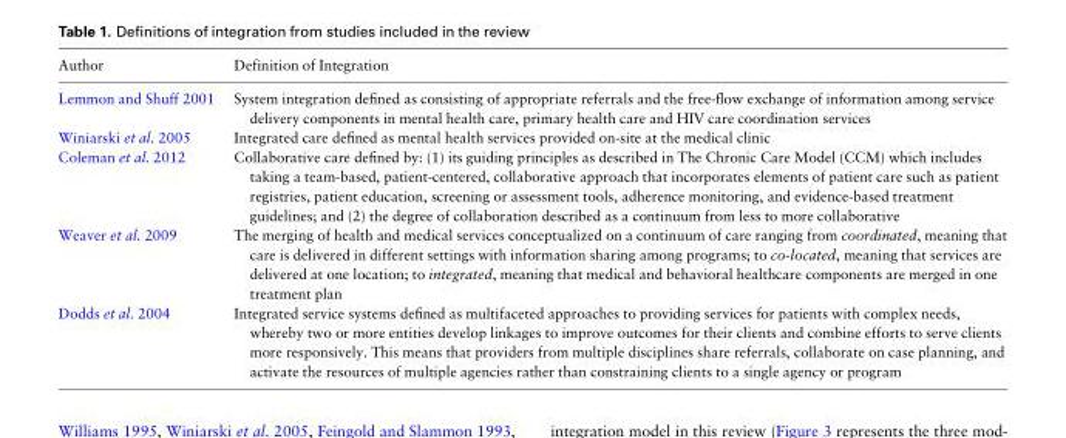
<table><thead><tr><td>Author</td><td>Definition of Integration</td></tr></thead><tbody><tr><td>Lemmon and Shuff 2001</td><td>System integration defined as consisting of appropriate referrals and the free-flow exchange of information among service delivery components in mental health care, primary health care and HIV care coordination services</td></tr><tr><td>Winiarski et al. 2005</td><td>Integrated care defined as mental health services provided on-site at the medical clinic</td></tr><tr><td>Coleman et al. 2012</td><td>Collaborative care defined by: (1) its guiding principles as described in The Chronic Care Model (CCM) which includes taking a team-based, patient-centered, collaborative approach that incorporates elements of patient care such as patient registries, patient education, screening or assessment tools, adherence monitoring, and evidence-based treatment guidelines; and (2) the degree of collaboration described as a continuum from less to more collaborative</td></tr><tr><td>Weaver et al. 2009</td><td>The merging of health and medical services conceptualized on a continuum of care ranging from coordinated, meaning that care is delivered in different settings with information sharing among programs; to co-located, meaning that services are delivered at one location; to integrated, meaning that medical and behavioral healthcare components are merged in one treatment plan</td></tr><tr><td>Dodds et al. 2004</td><td>Integrated service systems defined as multifaceted approaches to providing services for patients with complex needs, whereby two or more entities develop linkages to improve outcomes for their clients and combine efforts to serve clients more responsively. This means that providers from multiple disciplines share referrals, collaborate on case planning, and activate the resources of multiple agencies rather than constraining clients to a single agency or program</td></tr></tbody></table>